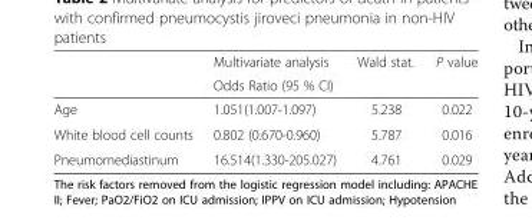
<table><thead><tr><td rowspan="2"></td><td rowspan="2">Multivariate analysis Odds Ratio (95 % CI)</td><td rowspan="2">Wald stat.</td><td rowspan="2">P value</td></tr><tr></tr></thead><tbody><tr><td>Age</td><td>1.051(1.007-1.097)</td><td>5.238</td><td>0.022</td></tr><tr><td>White blood cell counts</td><td>0.802 (0.670-0.960)</td><td>5.787</td><td>0.016</td></tr><tr><td>Pneumomediastinum</td><td>16.514(1.330-205.027)</td><td>4.761</td><td>0.029</td></tr></tbody></table>